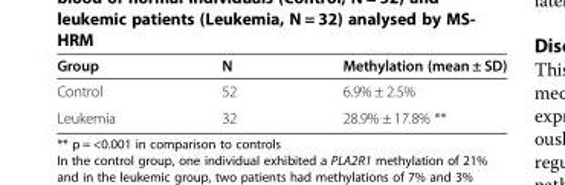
<table><thead><tr><td>Group</td><td>N</td><td>Methylation (mean ± SD)</td></tr></thead><tbody><tr><td>Control</td><td>52</td><td>6.9% ± 2.5%</td></tr><tr><td>Leukemia</td><td>32</td><td>28.9% ± 17.8% **</td></tr></tbody></table>